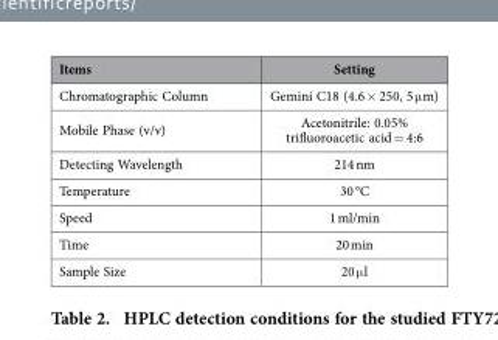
<table><thead><tr><td>Items</td><td>Setting</td></tr></thead><tbody><tr><td>Chromatographic Column</td><td>Gemini C18 (4.6 × 250, 5 μ m)</td></tr><tr><td>Mobile Phase (v/v)</td><td>Acetonitrile: 0.05% trifluoroacetic acid = 4:6</td></tr><tr><td>Detecting Wavelength</td><td>214 nm</td></tr><tr><td>Temperature</td><td>30 °C</td></tr><tr><td>Speed</td><td>1 ml/min</td></tr><tr><td>Time</td><td>20 min</td></tr><tr><td>Sample Size</td><td>20 μ l</td></tr></tbody></table>